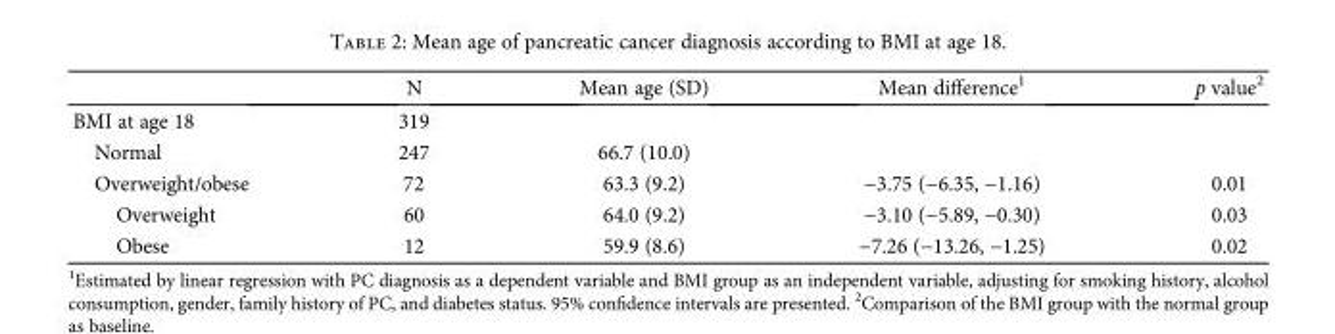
<table><thead><tr><td></td><td>N</td><td>Mean age (SD)</td><td>Mean difference<sup>1</sup></td><td>p value<sup>2</sup></td></tr></thead><tbody><tr><td>BMI at age 18</td><td>319</td><td></td><td></td><td></td></tr><tr><td>Normal</td><td>247</td><td>66.7 (10.0)</td><td></td><td></td></tr><tr><td>Overweight/obese</td><td>72</td><td>63.3 (9.2)</td><td>−3.75 (−6.35, −1.16)</td><td>0.01</td></tr><tr><td>Overweight</td><td>60</td><td>64.0 (9.2)</td><td>−3.10 (−5.89, −0.30)</td><td>0.03</td></tr><tr><td>Obese</td><td>12</td><td>59.9 (8.6)</td><td>−7.26 (−13.26, −1.25)</td><td>0.02</td></tr></tbody></table>